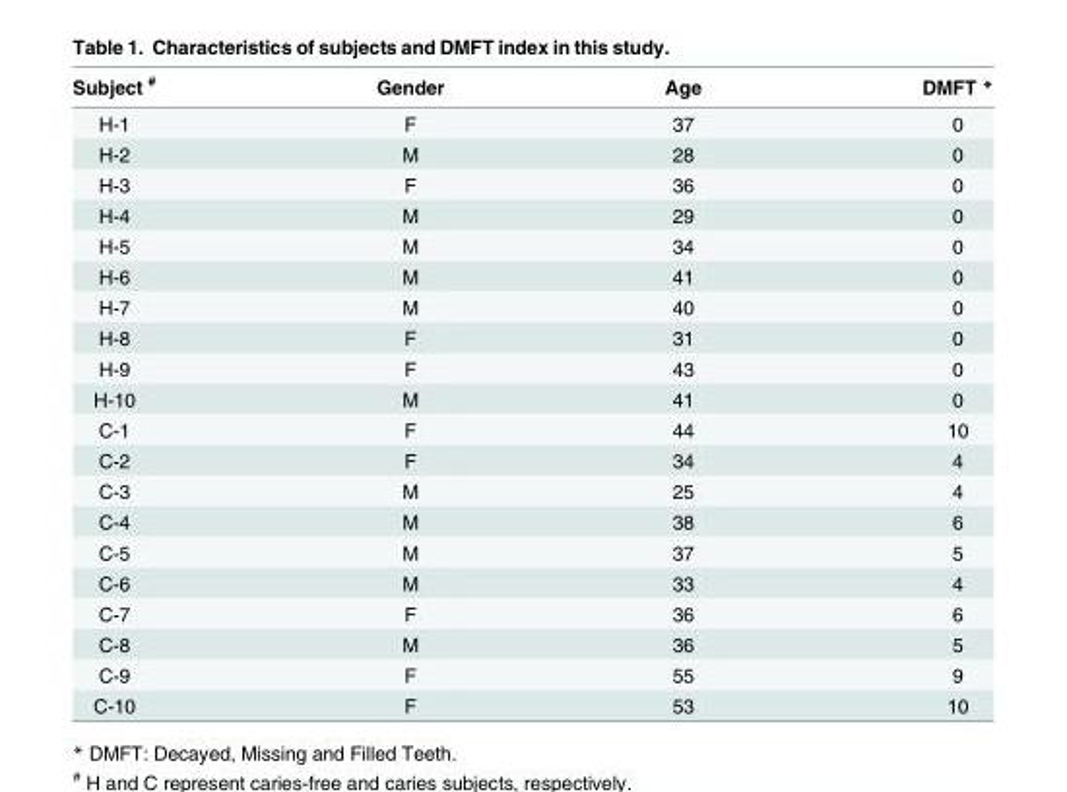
<table><thead><tr><td>Subject <sup>#</sup></td><td>Gender</td><td>Age</td><td>DMFT *</td></tr></thead><tbody><tr><td>H-1</td><td>F</td><td>37</td><td>0</td></tr><tr><td>H-2</td><td>M</td><td>28</td><td>0</td></tr><tr><td>H-3</td><td>F</td><td>36</td><td>0</td></tr><tr><td>H-4</td><td>M</td><td>29</td><td>0</td></tr><tr><td>H-5</td><td>M</td><td>34</td><td>0</td></tr><tr><td>H-6</td><td>M</td><td>41</td><td>0</td></tr><tr><td>H-7</td><td>M</td><td>40</td><td>0</td></tr><tr><td>H-8</td><td>F</td><td>31</td><td>0</td></tr><tr><td>H-9</td><td>F</td><td>43</td><td>0</td></tr><tr><td>H-10</td><td>M</td><td>41</td><td>0</td></tr><tr><td>C-1</td><td>F</td><td>44</td><td>10</td></tr><tr><td>C-2</td><td>F</td><td>34</td><td>4</td></tr><tr><td>C-3</td><td>M</td><td>25</td><td>4</td></tr><tr><td>C-4</td><td>M</td><td>38</td><td>6</td></tr><tr><td>C-5</td><td>M</td><td>37</td><td>5</td></tr><tr><td>C-6</td><td>M</td><td>33</td><td>4</td></tr><tr><td>C-7</td><td>F</td><td>36</td><td>6</td></tr><tr><td>C-8</td><td>M</td><td>36</td><td>5</td></tr><tr><td>C-9</td><td>F</td><td>55</td><td>9</td></tr><tr><td>C-10</td><td>F</td><td>53</td><td>10</td></tr></tbody></table>